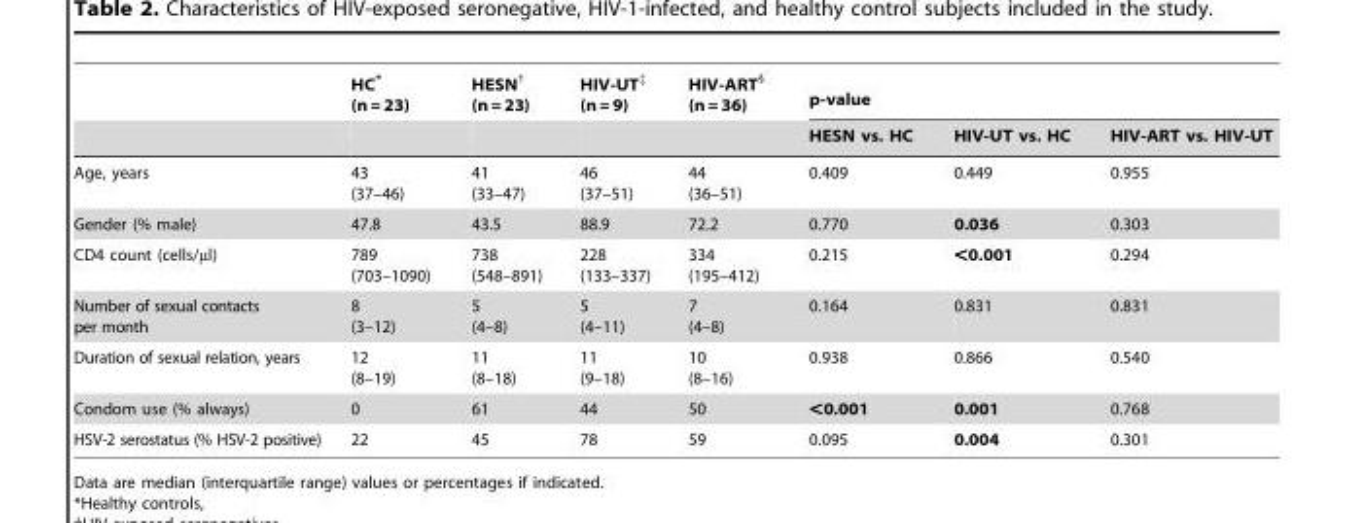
<table><thead><tr><td rowspan="2"></td><td rowspan="2">HC* (n = 23)</td><td rowspan="2">HESN† (n = 23)</td><td rowspan="2">HIV-UT‡ (n = 9)</td><td rowspan="2">HIV-ART§ (n = 36)</td><td colspan="3">p-value</td></tr><tr><td>HESN vs. HC</td><td>HIV-UT vs. HC</td><td>HIV-ART vs. HIV-UT</td></tr></thead><tbody><tr><td>Age, years</td><td>43 (37–46)</td><td>41 (33–47)</td><td>46 (37–51)</td><td>44 (36–51)</td><td>0.409</td><td>0.449</td><td>0.955</td></tr><tr><td>Gender (% male)</td><td>47.8</td><td>43.5</td><td>88.9</td><td>72.2</td><td>0.770</td><td>0.036</td><td>0.303</td></tr><tr><td>CD4 count (cells/µl)</td><td>789 (703–1090)</td><td>738 (548–891)</td><td>228 (133–337)</td><td>334 (195–412)</td><td>0.215</td><td>&lt;0.001</td><td>0.294</td></tr><tr><td>Number of sexual contacts per month</td><td>8 (3–12)</td><td>5 (4–8)</td><td>5 (4–11)</td><td>7 (4–8)</td><td>0.164</td><td>0.831</td><td>0.831</td></tr><tr><td>Duration of sexual relation, years</td><td>12 (8–19)</td><td>11 (8–18)</td><td>11 (9–18)</td><td>10 (8–16)</td><td>0.938</td><td>0.866</td><td>0.540</td></tr><tr><td>Condom use (% always)</td><td>0</td><td>61</td><td>44</td><td>50</td><td>&lt;0.001</td><td>0.001</td><td>0.768</td></tr><tr><td>HSV-2 serostatus (% HSV-2 positive)</td><td>22</td><td>45</td><td>78</td><td>59</td><td>0.095</td><td>0.004</td><td>0.301</td></tr></tbody></table>